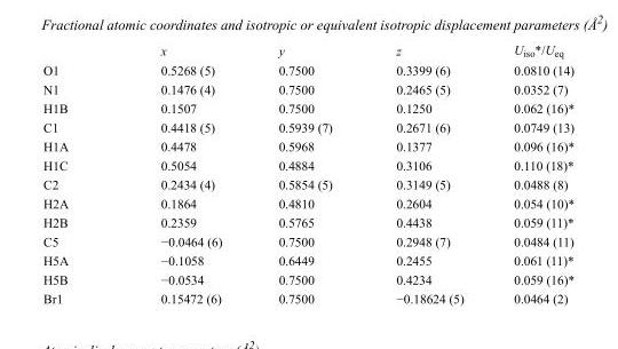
<table><thead><tr><td></td><td>x</td><td>y</td><td>z</td><td>U<sub>iso</sub>*/U<sub>eq</sub></td></tr></thead><tbody><tr><td>O1</td><td>0.5268 (5)</td><td>0.7500</td><td>0.3399 (6)</td><td>0.0810 (14)</td></tr><tr><td>N1</td><td>0.1476 (4)</td><td>0.7500</td><td>0.2465 (5)</td><td>0.0352 (7)</td></tr><tr><td>H1B</td><td>0.1507</td><td>0.7500</td><td>0.1250</td><td>0.062 (16)*</td></tr><tr><td>C1</td><td>0.4418 (5)</td><td>0.5939 (7)</td><td>0.2671 (6)</td><td>0.0749 (13)</td></tr><tr><td>H1A</td><td>0.4478</td><td>0.5968</td><td>0.1377</td><td>0.096 (16)*</td></tr><tr><td>H1C</td><td>0.5054</td><td>0.4884</td><td>0.3106</td><td>0.110 (18)*</td></tr><tr><td>C2</td><td>0.2434 (4)</td><td>0.5854 (5)</td><td>0.3149 (5)</td><td>0.0488 (8)</td></tr><tr><td>H2A</td><td>0.1864</td><td>0.4810</td><td>0.2604</td><td>0.054 (10)*</td></tr><tr><td>H2B</td><td>0.2359</td><td>0.5765</td><td>0.4438</td><td>0.059 (11)*</td></tr><tr><td>C5</td><td>−0.0464 (6)</td><td>0.7500</td><td>0.2948 (7)</td><td>0.0484 (11)</td></tr><tr><td>H5A</td><td>−0.1058</td><td>0.6449</td><td>0.2455</td><td>0.061 (11)*</td></tr><tr><td>H5B</td><td>−0.0534</td><td>0.7500</td><td>0.4234</td><td>0.059 (16)*</td></tr><tr><td>Br1</td><td>0.15472 (6)</td><td>0.7500</td><td>−0.18624 (5)</td><td>0.0464 (2)</td></tr></tbody></table>